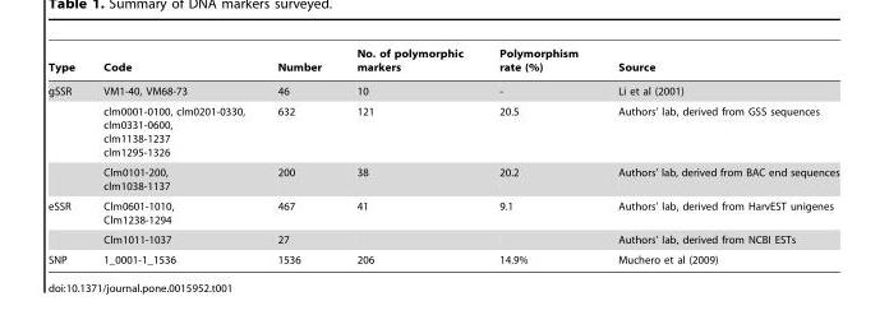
<table><thead><tr><td>Type</td><td>Code</td><td>Number</td><td>No. of polymorphic markers</td><td>Polymorphism rate (%)</td><td>Source</td></tr></thead><tbody><tr><td rowspan="3">gSSR</td><td>VM1-40, VM68-73</td><td>46</td><td>10</td><td>-</td><td>Li et al (2001)</td></tr><tr><td>clm0001-0100, clm0201-0330, clm0331-0600, clm1138-1237 clm1295-1326</td><td>632</td><td>121</td><td>20.5</td><td>Authors’ lab, derived from GSS sequences</td></tr><tr><td>Clm0101-200, clm1038-1137</td><td>200</td><td>38</td><td>20.2</td><td>Authors’ lab, derived from BAC end sequences</td></tr><tr><td rowspan="2">eSSR</td><td>Clm0601-1010, Clm1238-1294</td><td>467</td><td>41</td><td>9.1</td><td>Authors’ lab, derived from HarvEST unigenes</td></tr><tr><td>Clm1011-1037</td><td>27</td><td></td><td></td><td>Authors’ lab, derived from NCBI ESTs</td></tr><tr><td>SNP</td><td>1_0001-1_1536</td><td>1536</td><td>206</td><td>14.9%</td><td>Muchero et al (2009)</td></tr></tbody></table>